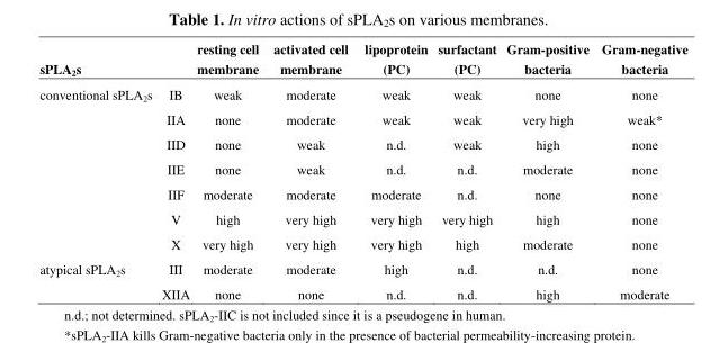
<table><thead><tr><td>sPLA<sub>2</sub>s</td><td></td><td>resting cell membrane</td><td>activated cell membrane</td><td>lipoprotein (PC)</td><td>surfactant (PC)</td><td>Gram-positive bacteria</td><td>Gram-negative bacteria</td></tr></thead><tbody><tr><td rowspan="7">conventional sPLA<sub>2</sub>s</td><td>IB</td><td>weak</td><td>moderate</td><td>weak</td><td>weak</td><td>none</td><td>none</td></tr><tr><td>IIA</td><td>none</td><td>moderate</td><td>weak</td><td>weak</td><td>very high</td><td>weak*</td></tr><tr><td>IID</td><td>none</td><td>weak</td><td>n.d.</td><td>weak</td><td>high</td><td>none</td></tr><tr><td>IIE</td><td>none</td><td>weak</td><td>n.d.</td><td>n.d.</td><td>moderate</td><td>none</td></tr><tr><td>IIF</td><td>moderate</td><td>moderate</td><td>moderate</td><td>n.d.</td><td>none</td><td>none</td></tr><tr><td>V</td><td>high</td><td>very high</td><td>very high</td><td>very high</td><td>high</td><td>none</td></tr><tr><td>X</td><td>very high</td><td>very high</td><td>very high</td><td>high</td><td>moderate</td><td>none</td></tr><tr><td rowspan="2">atypical sPLA<sub>2</sub>s</td><td>III</td><td>moderate</td><td>moderate</td><td>high</td><td>n.d.</td><td>n.d.</td><td>none</td></tr><tr><td>XIIA</td><td>none</td><td>none</td><td>n.d.</td><td>n.d.</td><td>high</td><td>moderate</td></tr></tbody></table>